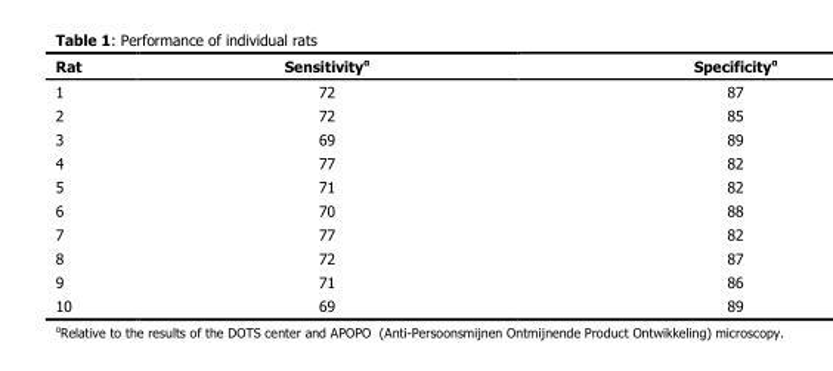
<table><thead><tr><td>Rat</td><td>Sensitivity<sup>α</sup></td><td>Specificity<sup>α</sup></td></tr></thead><tbody><tr><td>1</td><td>72</td><td>87</td></tr><tr><td>2</td><td>72</td><td>85</td></tr><tr><td>3</td><td>69</td><td>89</td></tr><tr><td>4</td><td>77</td><td>82</td></tr><tr><td>5</td><td>71</td><td>82</td></tr><tr><td>6</td><td>70</td><td>88</td></tr><tr><td>7</td><td>77</td><td>82</td></tr><tr><td>8</td><td>72</td><td>87</td></tr><tr><td>9</td><td>71</td><td>86</td></tr><tr><td>10</td><td>69</td><td>89</td></tr></tbody></table>